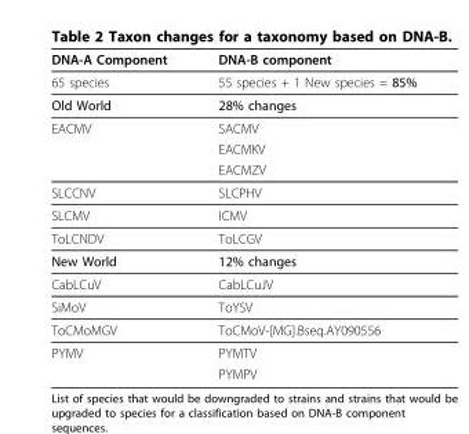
<table><thead><tr><td>DNA-A Component</td><td>DNA-B component</td></tr></thead><tbody><tr><td>65 species</td><td>55 species + 1 New species = 85%</td></tr><tr><td>Old World</td><td>28% changes</td></tr><tr><td rowspan="3">EACMV</td><td>SACMV</td></tr><tr><td>EACMKV</td></tr><tr><td>EACMZV</td></tr><tr><td>SLCCNV</td><td>SLCPHV</td></tr><tr><td>SLCMV</td><td>ICMV</td></tr><tr><td>ToLCNDV</td><td>ToLCGV</td></tr><tr><td>New World</td><td>12% changes</td></tr><tr><td>CabLCuV</td><td>CabLCuJV</td></tr><tr><td>SiMoV</td><td>ToYSV</td></tr><tr><td>ToCMoMGV</td><td>ToCMoV-[MG].Bseq.AY090556</td></tr><tr><td rowspan="2">PYMV</td><td>PYMTV</td></tr><tr><td>PYMPV</td></tr></tbody></table>